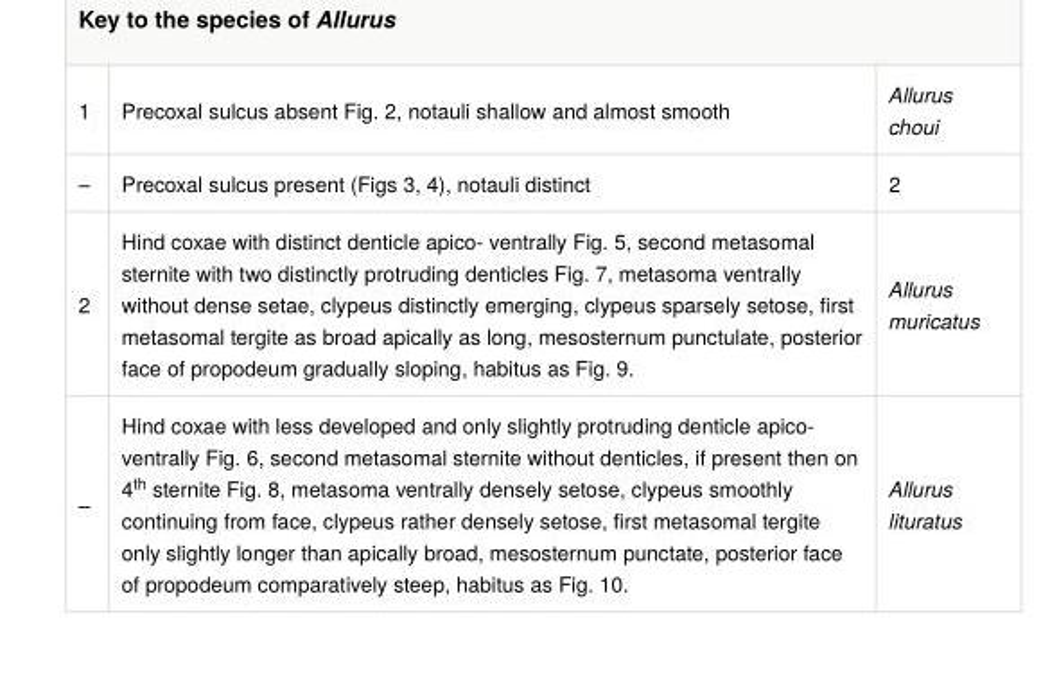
<table><tbody><tr><td>1</td><td>Precoxal sulcus absent Fig. 2, notauli shallow and almost smooth</td><td>Allurus choui</td></tr><tr><td>–</td><td>Precoxal sulcus present (Figs 3, 4), notauli distinct</td><td>2</td></tr><tr><td>2</td><td>Hind coxae with distinct denticle apico- ventrally Fig. 5, second metasomal sternite with two distinctly protruding denticles Fig. 7, metasoma ventrally without dense setae, clypeus distinctly emerging, clypeus sparsely setose, first metasomal tergite as broad apically as long, mesosternum punctulate, posterior face of propodeum gradually sloping, habitus as Fig. 9.</td><td>Allurus muricatus</td></tr><tr><td>–</td><td>Hind coxae with less developed and only slightly protruding denticle apico- ventrally Fig. 6, second metasomal sternite without denticles, if present then on 4 sternite Fig. 8, metasoma ventrally densely setose, clypeus smoothly continuing from face, clypeus rather densely setose, first metasomal tergite only slightly longer than apically broad, mesosternum punctate, posterior face of propodeum comparatively steep, habitus as Fig. 10. th</td><td>Allurus lituratus</td></tr></tbody></table>